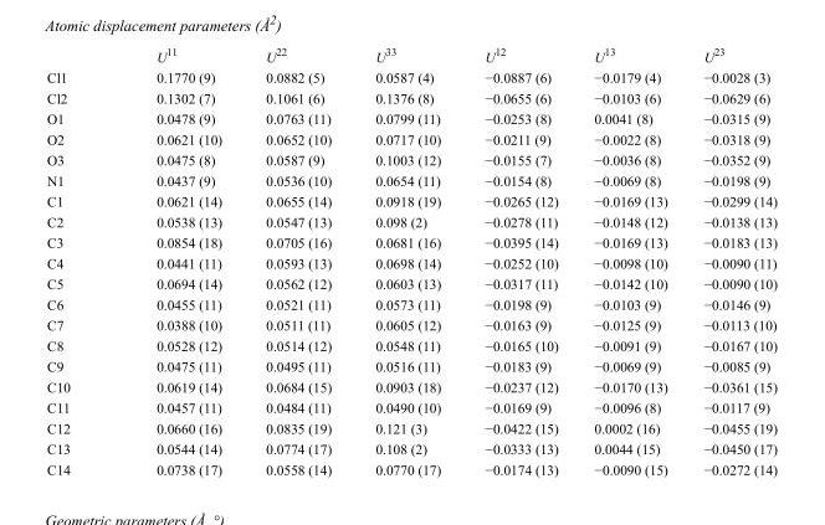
<table><thead><tr><td></td><td>U<sup>11</sup></td><td>U<sup>22</sup></td><td>U<sup>33</sup></td><td>U<sup>12</sup></td><td>U<sup>13</sup></td><td>U<sup>23</sup></td></tr></thead><tbody><tr><td>Cl1</td><td>0.1770 (9)</td><td>0.0882 (5)</td><td>0.0587 (4)</td><td>−0.0887 (6)</td><td>−0.0179 (4)</td><td>−0.0028 (3)</td></tr><tr><td>Cl2</td><td>0.1302 (7)</td><td>0.1061 (6)</td><td>0.1376 (8)</td><td>−0.0655 (6)</td><td>−0.0103 (6)</td><td>−0.0629 (6)</td></tr><tr><td>O1</td><td>0.0478 (9)</td><td>0.0763 (11)</td><td>0.0799 (11)</td><td>−0.0253 (8)</td><td>0.0041 (8)</td><td>−0.0315 (9)</td></tr><tr><td>O2</td><td>0.0621 (10)</td><td>0.0652 (10)</td><td>0.0717 (10)</td><td>−0.0211 (9)</td><td>−0.0022 (8)</td><td>−0.0318 (9)</td></tr><tr><td>O3</td><td>0.0475 (8)</td><td>0.0587 (9)</td><td>0.1003 (12)</td><td>−0.0155 (7)</td><td>−0.0036 (8)</td><td>−0.0352 (9)</td></tr><tr><td>N1</td><td>0.0437 (9)</td><td>0.0536 (10)</td><td>0.0654 (11)</td><td>−0.0154 (8)</td><td>−0.0069 (8)</td><td>−0.0198 (9)</td></tr><tr><td>C1</td><td>0.0621 (14)</td><td>0.0655 (14)</td><td>0.0918 (19)</td><td>−0.0265 (12)</td><td>−0.0169 (13)</td><td>−0.0299 (14)</td></tr><tr><td>C2</td><td>0.0538 (13)</td><td>0.0547 (13)</td><td>0.098 (2)</td><td>−0.0278 (11)</td><td>−0.0148 (12)</td><td>−0.0138 (13)</td></tr><tr><td>C3</td><td>0.0854 (18)</td><td>0.0705 (16)</td><td>0.0681 (16)</td><td>−0.0395 (14)</td><td>−0.0169 (13)</td><td>−0.0183 (13)</td></tr><tr><td>C4</td><td>0.0441 (11)</td><td>0.0593 (13)</td><td>0.0698 (14)</td><td>−0.0252 (10)</td><td>−0.0098 (10)</td><td>−0.0090 (11)</td></tr><tr><td>C5</td><td>0.0694 (14)</td><td>0.0562 (12)</td><td>0.0603 (13)</td><td>−0.0317 (11)</td><td>−0.0142 (10)</td><td>−0.0090 (10)</td></tr><tr><td>C6</td><td>0.0455 (11)</td><td>0.0521 (11)</td><td>0.0573 (11)</td><td>−0.0198 (9)</td><td>−0.0103 (9)</td><td>−0.0146 (9)</td></tr><tr><td>C7</td><td>0.0388 (10)</td><td>0.0511 (11)</td><td>0.0605 (12)</td><td>−0.0163 (9)</td><td>−0.0125 (9)</td><td>−0.0113 (10)</td></tr><tr><td>C8</td><td>0.0528 (12)</td><td>0.0514 (12)</td><td>0.0548 (11)</td><td>−0.0165 (10)</td><td>−0.0091 (9)</td><td>−0.0167 (10)</td></tr><tr><td>C9</td><td>0.0475 (11)</td><td>0.0495 (11)</td><td>0.0516 (11)</td><td>−0.0183 (9)</td><td>−0.0069 (9)</td><td>−0.0085 (9)</td></tr><tr><td>C10</td><td>0.0619 (14)</td><td>0.0684 (15)</td><td>0.0903 (18)</td><td>−0.0237 (12)</td><td>−0.0170 (13)</td><td>−0.0361 (15)</td></tr><tr><td>C11</td><td>0.0457 (11)</td><td>0.0484 (11)</td><td>0.0490 (10)</td><td>−0.0169 (9)</td><td>−0.0096 (8)</td><td>−0.0117 (9)</td></tr><tr><td>C12</td><td>0.0660 (16)</td><td>0.0835 (19)</td><td>0.121 (3)</td><td>−0.0422 (15)</td><td>0.0002 (16)</td><td>−0.0455 (19)</td></tr><tr><td>C13</td><td>0.0544 (14)</td><td>0.0774 (17)</td><td>0.108 (2)</td><td>−0.0333 (13)</td><td>0.0044 (15)</td><td>−0.0450 (17)</td></tr><tr><td>C14</td><td>0.0738 (17)</td><td>0.0558 (14)</td><td>0.0770 (17)</td><td>−0.0174 (13)</td><td>−0.0090 (15)</td><td>−0.0272 (14)</td></tr></tbody></table>